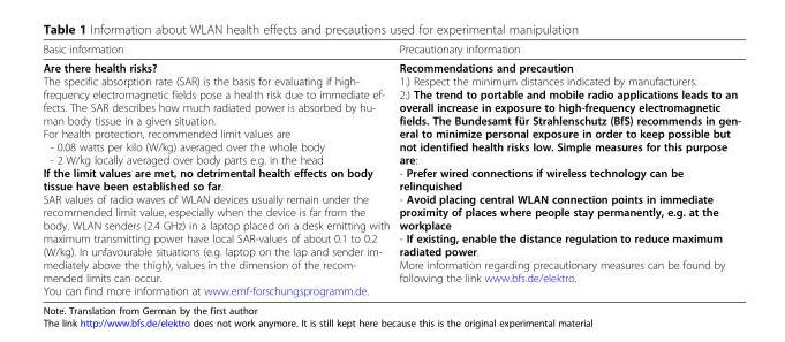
<table><thead><tr><td>Basic information</td><td>Precautionary information</td></tr></thead><tbody><tr><td>Are there health risks? The specific absorption rate (SAR) is the basis for evaluating if high- frequency electromagnetic fields pose a health risk due to immediate ef- fects. The SAR describes how much radiated power is absorbed by hu- man body tissue in a given situation. For health protection, recommended limit values are - 0.08 watts per kilo (W/kg) averaged over the whole body - 2 W/kg locally averaged over body parts e.g. in the head If the limit values are met, no detrimental health effects on body tissue have been established so far. SAR values of radio waves of WLAN devices usually remain under the recommended limit value, especially when the device is far from the body. WLAN senders (2.4 GHz) in a laptop placed on a desk emitting with maximum transmitting power have local SAR-values of about 0.1 to 0.2 (W/kg). In unfavourable situations (e.g. laptop on the lap and sender im- mediately above the thigh), values in the dimension of the recom- mended limits can occur. You can find more information at www.emf-forschungsprogramm.de.</td><td>Recommendations and precaution 1.) Respect the minimum distances indicated by manufacturers. 2.) The trend to portable and mobile radio applications leads to an overall increase in exposure to high-frequency electromagnetic fields. The Bundesamt für Strahlenschutz (BfS) recommends in gen- eral to minimize personal exposure in order to keep possible but not identified health risks low. Simple measures for this purpose are: - Prefer wired connections if wireless technology can be relinquished - Avoid placing central WLAN connection points in immediate proximity of places where people stay permanently, e.g. at the workplace - If existing, enable the distance regulation to reduce maximum radiated power. More information regarding precautionary measures can be found by following the link www.bfs.de/elektro.</td></tr></tbody></table>